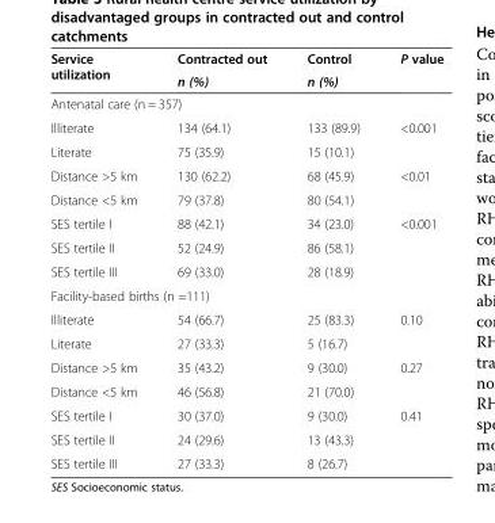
<table><thead><tr><td rowspan="2">Service utilization</td><td rowspan="2">Contracted out n (%)</td><td rowspan="2">Control n (%)</td><td rowspan="2">P value</td></tr><tr></tr></thead><tbody><tr><td colspan="4">Antenatal care (n = 357)</td></tr><tr><td>Illiterate</td><td>134 (64.1)</td><td>133 (89.9)</td><td rowspan="2">&lt;0.001</td></tr><tr><td>Literate</td><td>75 (35.9)</td><td>15 (10.1)</td></tr><tr><td>Distance &gt;5 km</td><td>130 (62.2)</td><td>68 (45.9)</td><td rowspan="2">&lt;0.01</td></tr><tr><td>Distance &lt;5 km</td><td>79 (37.8)</td><td>80 (54.1)</td></tr><tr><td>SES tertile I</td><td>88 (42.1)</td><td>34 (23.0)</td><td rowspan="3">&lt;0.001</td></tr><tr><td>SES tertile II</td><td>52 (24.9)</td><td>86 (58.1)</td></tr><tr><td>SES tertile III</td><td>69 (33.0)</td><td>28 (18.9)</td></tr><tr><td colspan="4">Facility-based births (n =111)</td></tr><tr><td>Illiterate</td><td>54 (66.7)</td><td>25 (83.3)</td><td rowspan="2">0.10</td></tr><tr><td>Literate</td><td>27 (33.3)</td><td>5 (16.7)</td></tr><tr><td>Distance &gt;5 km</td><td>35 (43.2)</td><td>9 (30.0)</td><td rowspan="2">0.27</td></tr><tr><td>Distance &lt;5 km</td><td>46 (56.8)</td><td>21 (70.0)</td></tr><tr><td>SES tertile I</td><td>30 (37.0)</td><td>9 (30.0)</td><td rowspan="3">0.41</td></tr><tr><td>SES tertile II</td><td>24 (29.6)</td><td>13 (43.3)</td></tr><tr><td>SES tertile III</td><td>27 (33.3)</td><td>8 (26.7)</td></tr></tbody></table>